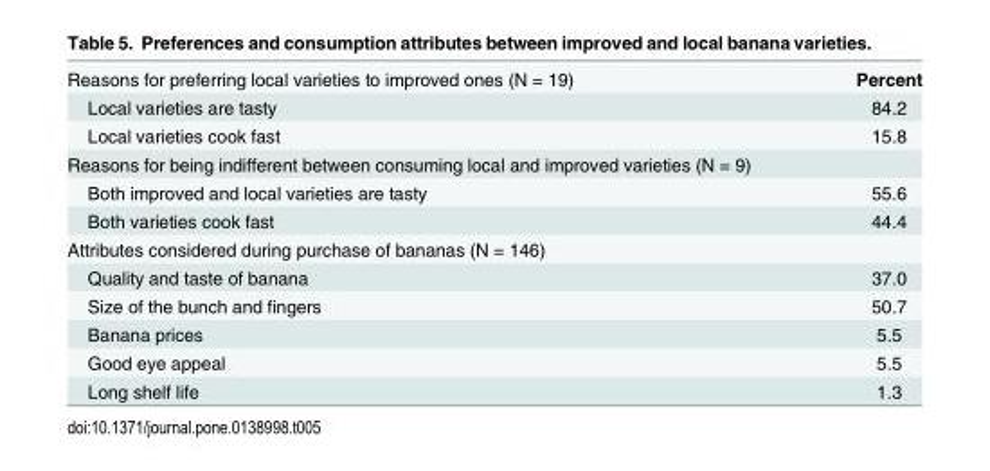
<table><tbody><tr><td>Reasons for preferring local varieties to improved ones (N = 19)</td><td>Percent</td></tr><tr><td>Local varieties are tasty</td><td>84.2</td></tr><tr><td>Local varieties cook fast</td><td>15.8</td></tr><tr><td colspan="2">Reasons for being indifferent between consuming local and improved varieties (N = 9)</td></tr><tr><td>Both improved and local varieties are tasty</td><td>55.6</td></tr><tr><td>Both varieties cook fast</td><td>44.4</td></tr><tr><td colspan="2">Attributes considered during purchase of bananas (N = 146)</td></tr><tr><td>Quality and taste of banana</td><td>37.0</td></tr><tr><td>Size of the bunch and fingers</td><td>50.7</td></tr><tr><td>Banana prices</td><td>5.5</td></tr><tr><td>Good eye appeal</td><td>5.5</td></tr><tr><td>Long shelf life</td><td>1.3</td></tr></tbody></table>